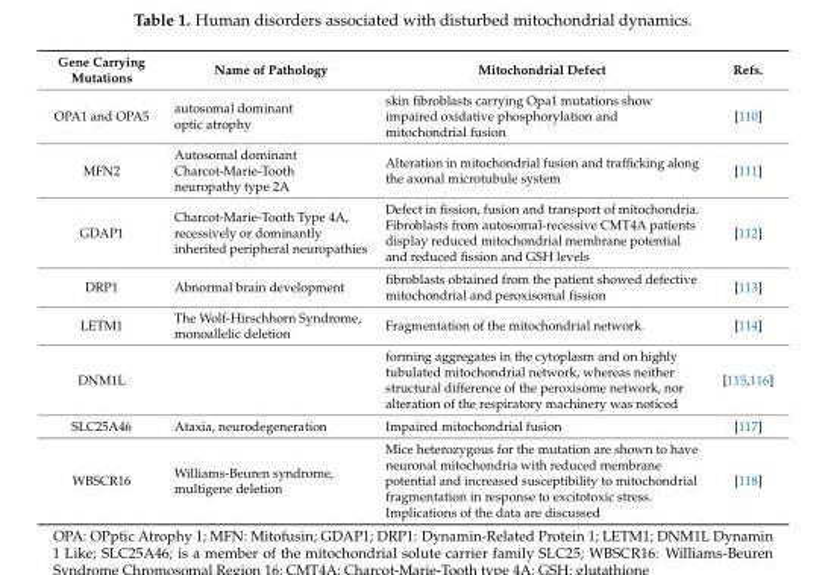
<table><thead><tr><td>Gene Carrying Mutations</td><td>Name of Pathology</td><td>Mitochondrial Defect</td><td>Refs.</td></tr></thead><tbody><tr><td>OPA1 and OPA5</td><td>autosomal dominant optic atrophy</td><td>skin fibroblasts carrying Opa1 mutations show impaired oxidative phosphorylation and mitochondrial fusion</td><td>[110]</td></tr><tr><td>MFN2</td><td>Autosomal dominant Charcot-Marie-Tooth neuropathy type 2A</td><td>Alteration in mitochondrial fusion and trafficking along the axonal microtubule system</td><td>[111]</td></tr><tr><td>GDAP1</td><td>Charcot-Marie-Tooth Type 4A, recessively or dominantly inherited peripheral neuropathies</td><td>Defect in fission, fusion and transport of mitochondria. Fibroblasts from autosomal-recessive CMT4A patients display reduced mitochondrial membrane potential and reduced fission and GSH levels</td><td>[112]</td></tr><tr><td>DRP1</td><td>Abnormal brain development</td><td>fibroblasts obtained from the patient showed defective mitochondrial and peroxisomal fission</td><td>[113]</td></tr><tr><td>LETM1</td><td>The Wolf-Hirschhorn Syndrome, monoallelic deletion</td><td>Fragmentation of the mitochondrial network.</td><td>[114]</td></tr><tr><td>DNM1L</td><td></td><td>forming aggregates in the cytoplasm and on highly tubulated mitochondrial network, whereas neither structural difference of the peroxisome network, nor alteration of the respiratory machinery was noticed</td><td>[115,116]</td></tr><tr><td>SLC25A46</td><td>Ataxia, neurodegeneration</td><td>Impaired mitochondrial fusion</td><td>[117]</td></tr><tr><td>WBSCR16</td><td>Williams-Beuren syndrome, multigene deletion</td><td>Mice heterozygous for the mutation are shown to have neuronal mitochondria with reduced membrane potential and increased susceptibility to mitochondrial fragmentation in response to excitotoxic stress. Implications of the data are discussed</td><td>[118]</td></tr></tbody></table>